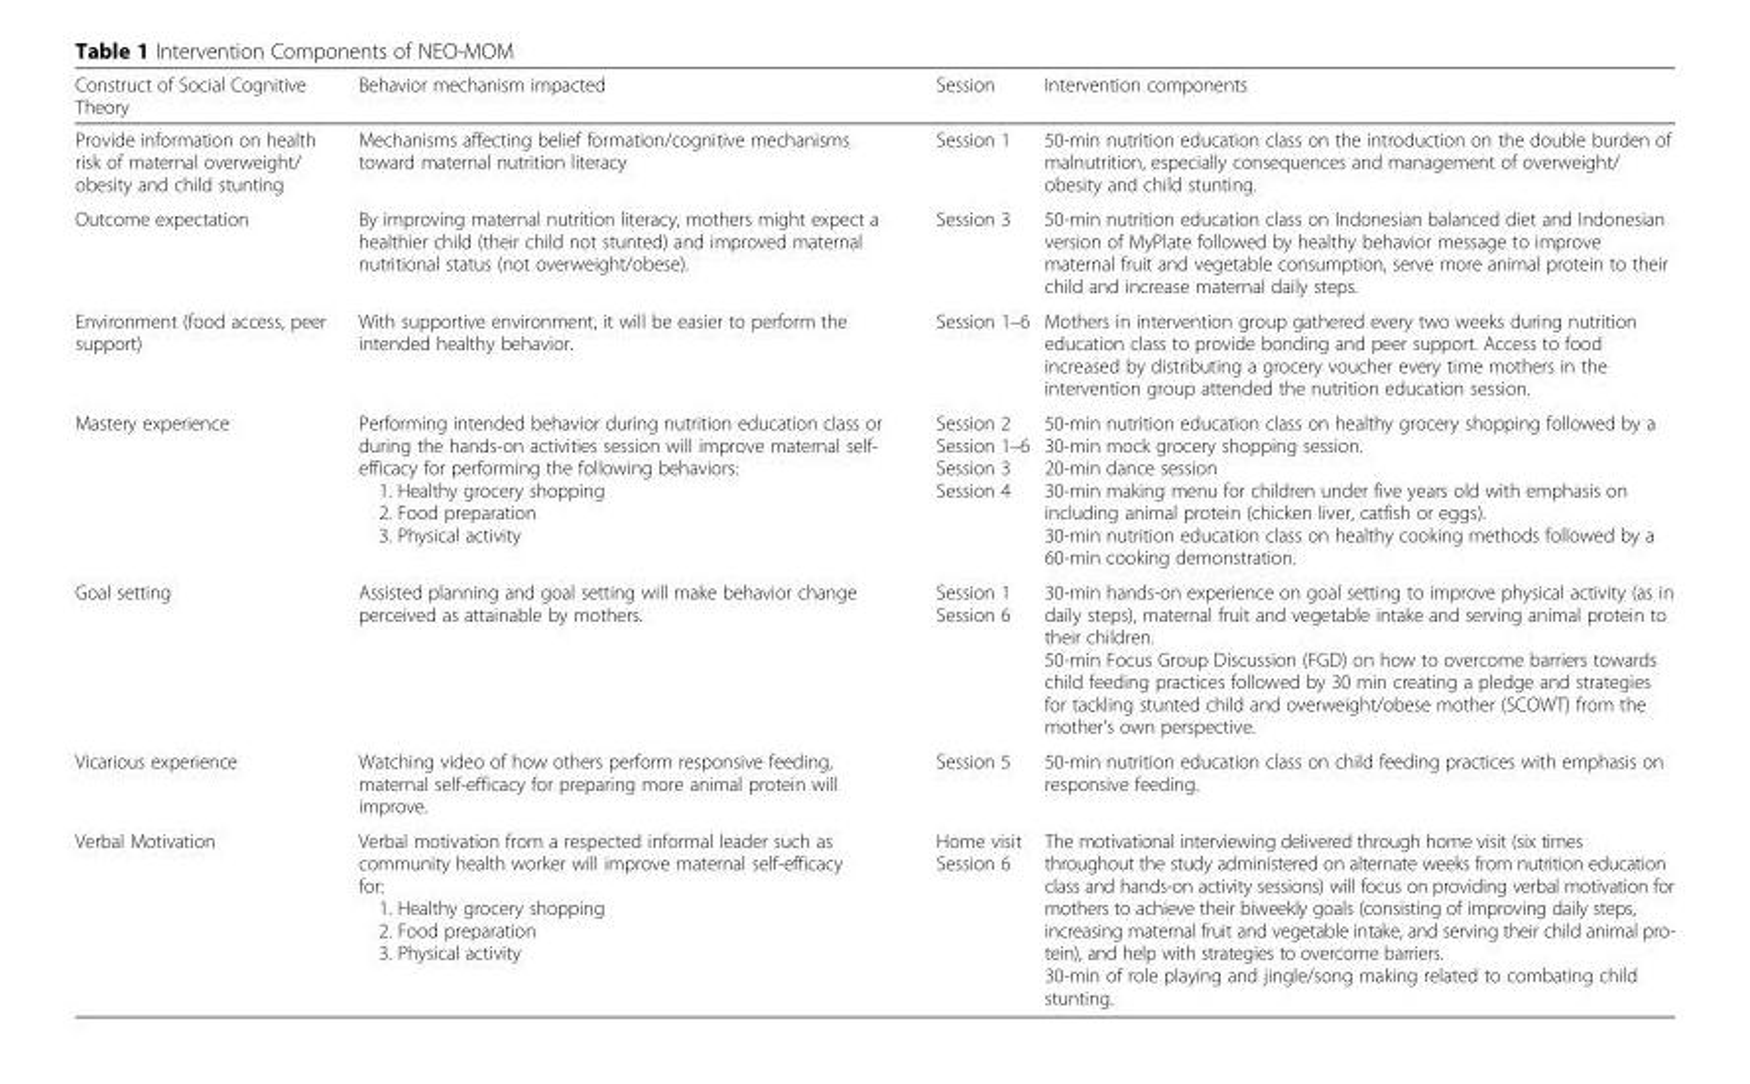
<table><thead><tr><td>Construct of Social Cognitive Theory</td><td>Behavior mechanism impacted</td><td>Session</td><td>Intervention components</td></tr></thead><tbody><tr><td>Provide information on health risk of maternal overweight/ obesity and child stunting</td><td>Mechanisms affecting belief formation/cognitive mechanisms toward maternal nutrition literacy</td><td>Session 1</td><td>50-min nutrition education class on the introduction on the double burden of malnutrition, especially consequences and management of overweight/ obesity and child stunting.</td></tr><tr><td>Outcome expectation</td><td>By improving maternal nutrition literacy, mothers might expect a healthier child (their child not stunted) and improved maternal nutritional status (not overweight/obese).</td><td>Session 3</td><td>50-min nutrition education class on Indonesian balanced diet and Indonesian version of MyPlate followed by healthy behavior message to improve maternal fruit and vegetable consumption, serve more animal protein to their child and increase maternal daily steps.</td></tr><tr><td>Environment (food access, peer support)</td><td>With supportive environment, it will be easier to perform the intended healthy behavior.</td><td>Session 1–6</td><td>Mothers in intervention group gathered every two weeks during nutrition education class to provide bonding and peer support. Access to food increased by distributing a grocery voucher every time mothers in the intervention group attended the nutrition education session.</td></tr><tr><td>Mastery experience</td><td>Performing intended behavior during nutrition education class or during the hands-on activities session will improve maternal self- efficacy for performing the following behaviors: 1. Healthy grocery shopping 2. Food preparation 3. Physical activity</td><td>Session 2 Session 1–6 Session 3 Session 4</td><td>50-min nutrition education class on healthy grocery shopping followed by a 30-min mock grocery shopping session. 20-min dance session 30-min making menu for children under five years old with emphasis on including animal protein (chicken liver, catfish or eggs). 30-min nutrition education class on healthy cooking methods followed by a 60-min cooking demonstration.</td></tr><tr><td>Goal setting</td><td>Assisted planning and goal setting will make behavior change perceived as attainable by mothers.</td><td>Session 1 Session 6</td><td>30-min hands-on experience on goal setting to improve physical activity (as in daily steps), maternal fruit and vegetable intake and serving animal protein to their children. 50-min Focus Group Discussion (FGD) on how to overcome barriers towards child feeding practices followed by 30 min creating a pledge and strategies for tackling stunted child and overweight/obese mother (SCOWT) from the mother’s own perspective.</td></tr><tr><td>Vicarious experience</td><td>Watching video of how others perform responsive feeding, maternal self-efficacy for preparing more animal protein will improve.</td><td>Session 5</td><td>50-min nutrition education class on child feeding practices with emphasis on responsive feeding.</td></tr><tr><td>Verbal Motivation</td><td>Verbal motivation from a respected informal leader such as community health worker will improve maternal self-efficacy for: 1. Healthy grocery shopping 2. Food preparation 3. Physical activity</td><td>Home visit Session 6</td><td>The motivational interviewing delivered through home visit (six times throughout the study administered on alternate weeks from nutrition education class and hands-on activity sessions) will focus on providing verbal motivation for mothers to achieve their biweekly goals (consisting of improving daily steps, increasing maternal fruit and vegetable intake, and serving their child animal pro- tein), and help with strategies to overcome barriers. 30-min of role playing and jingle/song making related to combating child stunting.</td></tr></tbody></table>